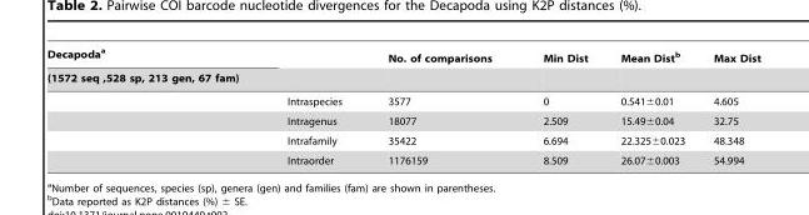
<table><thead><tr><td rowspan="2">Decapoda<sup>a</sup> (1572 seq ,528 sp, 213 gen, 67 fam)</td><td rowspan="2"></td><td rowspan="2">No. of comparisons</td><td rowspan="2">Min Dist</td><td rowspan="2">Mean Dist<sup>b</sup></td><td rowspan="2">Max Dist</td></tr><tr></tr></thead><tbody><tr><td></td><td>Intraspecies</td><td>3577</td><td>0</td><td>0.541±0.01</td><td>4.605</td></tr><tr><td></td><td>Intragenus</td><td>18077</td><td>2.509</td><td>15.49±0.04</td><td>32.75</td></tr><tr><td></td><td>Intrafamily</td><td>35422</td><td>6.694</td><td>22.325±0.023</td><td>48.348</td></tr><tr><td></td><td>Intraorder</td><td>1176159</td><td>8.509</td><td>26.07±0.003</td><td>54.994</td></tr></tbody></table>